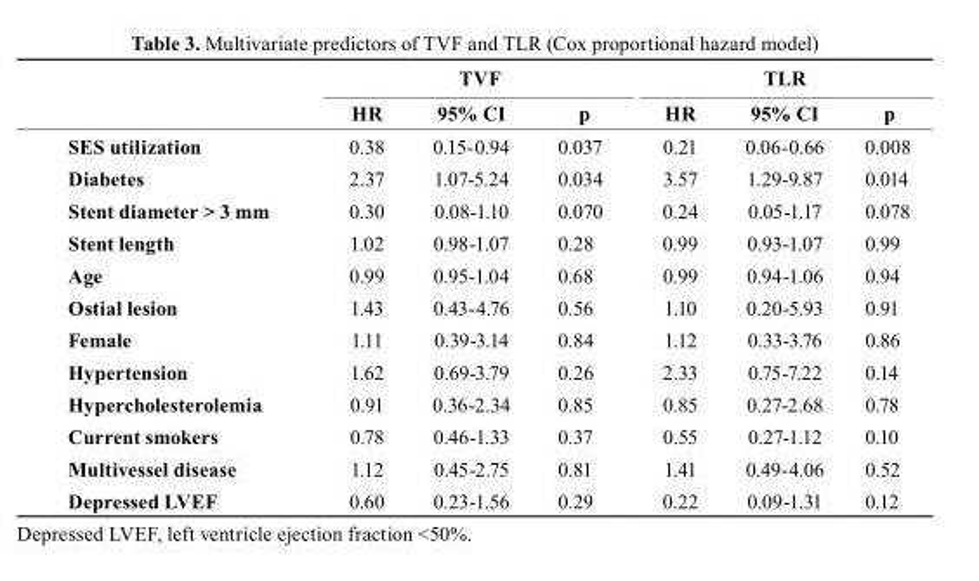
<table><thead><tr><td rowspan="2"></td><td colspan="3">TVF</td><td colspan="3">TLR</td></tr><tr><td>HR</td><td>95% CI</td><td>p</td><td>HR</td><td>95% CI</td><td>p</td></tr></thead><tbody><tr><td>SES utilization</td><td>0.38</td><td>0.15-0.94</td><td>0.037</td><td>0.21</td><td>0.06-0.66</td><td>0.008</td></tr><tr><td>Diabetes</td><td>2.37</td><td>1.07-5.24</td><td>0.034</td><td>3.57</td><td>1.29-9.87</td><td>0.014</td></tr><tr><td>Stent diameter &gt; 3 mm</td><td>0.30</td><td>0.08-1.10</td><td>0.070</td><td>0.24</td><td>0.05-1.17</td><td>0.078</td></tr><tr><td>Stent length</td><td>1.02</td><td>0.98-1.07</td><td>0.28</td><td>0.99</td><td>0.93-1.07</td><td>0.99</td></tr><tr><td>Age</td><td>0.99</td><td>0.95-1.04</td><td>0.68</td><td>0.99</td><td>0.94-1.06</td><td>0.94</td></tr><tr><td>Ostial lesion</td><td>1.43</td><td>0.43-4.76</td><td>0.56</td><td>1.10</td><td>0.20-5.93</td><td>0.91</td></tr><tr><td>Female</td><td>1.11</td><td>0.39-3.14</td><td>0.84</td><td>1.12</td><td>0.33-3.76</td><td>0.86</td></tr><tr><td>Hypertension</td><td>1.62</td><td>0.69-3.79</td><td>0.26</td><td>2.33</td><td>0.75-7.22</td><td>0.14</td></tr><tr><td>Hypercholesterolemia</td><td>0.91</td><td>0.36-2.34</td><td>0.85</td><td>0.85</td><td>0.27-2.68</td><td>0.78</td></tr><tr><td>Current smokers</td><td>0.78</td><td>0.46-1.33</td><td>0.37</td><td>0.55</td><td>0.27-1.12</td><td>0.10</td></tr><tr><td>Multivessel disease</td><td>1.12</td><td>0.45-2.75</td><td>0.81</td><td>1.41</td><td>0.49-4.06</td><td>0.52</td></tr><tr><td>Depressed LVEF</td><td>0.60</td><td>0.23-1.56</td><td>0.29</td><td>0.22</td><td>0.09-1.31</td><td>0.12</td></tr></tbody></table>